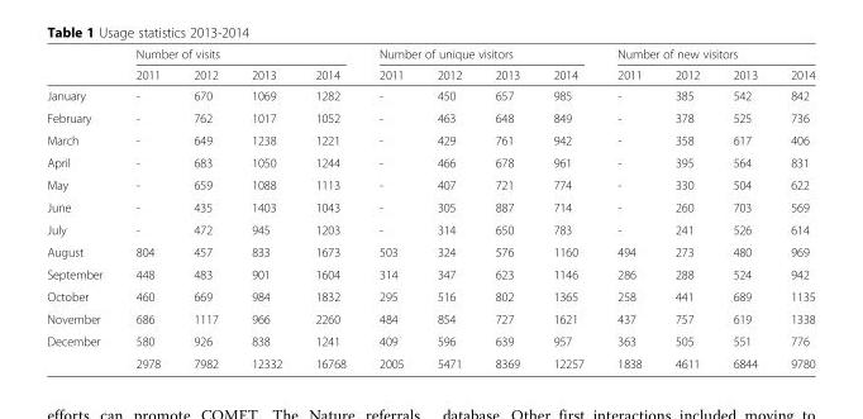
<table><thead><tr><td rowspan="2"></td><td colspan="4">Number of visits</td><td colspan="4">Number of unique visitors</td><td colspan="4">Number of new visitors</td></tr><tr><td>2011</td><td>2012</td><td>2013</td><td>2014</td><td>2011</td><td>2012</td><td>2013</td><td>2014</td><td>2011</td><td>2012</td><td>2013</td><td>2014</td></tr></thead><tbody><tr><td>January</td><td>-</td><td>670</td><td>1069</td><td>1282</td><td>-</td><td>450</td><td>657</td><td>985</td><td>-</td><td>385</td><td>542</td><td>842</td></tr><tr><td>February</td><td>-</td><td>762</td><td>1017</td><td>1052</td><td>-</td><td>463</td><td>648</td><td>849</td><td>-</td><td>378</td><td>525</td><td>736</td></tr><tr><td>March</td><td>-</td><td>649</td><td>1238</td><td>1221</td><td>-</td><td>429</td><td>761</td><td>942</td><td>-</td><td>358</td><td>617</td><td>406</td></tr><tr><td>April</td><td>-</td><td>683</td><td>1050</td><td>1244</td><td>-</td><td>466</td><td>678</td><td>961</td><td>-</td><td>395</td><td>564</td><td>831</td></tr><tr><td>May</td><td>-</td><td>659</td><td>1088</td><td>1113</td><td>-</td><td>407</td><td>721</td><td>774</td><td>-</td><td>330</td><td>504</td><td>622</td></tr><tr><td>June</td><td>-</td><td>435</td><td>1403</td><td>1043</td><td>-</td><td>305</td><td>887</td><td>714</td><td>-</td><td>260</td><td>703</td><td>569</td></tr><tr><td>July</td><td>-</td><td>472</td><td>945</td><td>1203</td><td>-</td><td>314</td><td>650</td><td>783</td><td>-</td><td>241</td><td>526</td><td>614</td></tr><tr><td>August</td><td>804</td><td>457</td><td>833</td><td>1673</td><td>503</td><td>324</td><td>576</td><td>1160</td><td>494</td><td>273</td><td>480</td><td>969</td></tr><tr><td>September</td><td>448</td><td>483</td><td>901</td><td>1604</td><td>314</td><td>347</td><td>623</td><td>1146</td><td>286</td><td>288</td><td>524</td><td>942</td></tr><tr><td>October</td><td>460</td><td>669</td><td>984</td><td>1832</td><td>295</td><td>516</td><td>802</td><td>1365</td><td>258</td><td>441</td><td>689</td><td>1135</td></tr><tr><td>November</td><td>686</td><td>1117</td><td>966</td><td>2260</td><td>484</td><td>854</td><td>727</td><td>1621</td><td>437</td><td>757</td><td>619</td><td>1338</td></tr><tr><td rowspan="2">December</td><td>580</td><td>926</td><td>838</td><td>1241</td><td>409</td><td>596</td><td>639</td><td>957</td><td>363</td><td>505</td><td>551</td><td>776</td></tr><tr><td>2978</td><td>7982</td><td>12332</td><td>16768</td><td>2005</td><td>5471</td><td>8369</td><td>12257</td><td>1838</td><td>4611</td><td>6844</td><td>9780</td></tr></tbody></table>